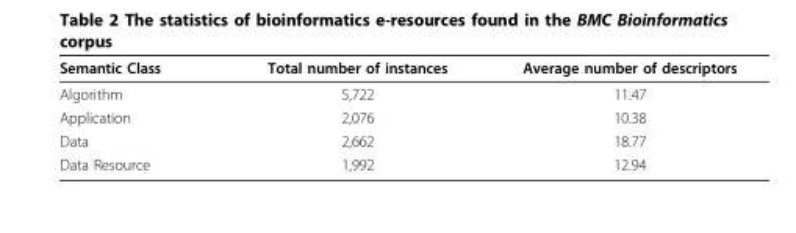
<table><thead><tr><td>Semantic Class</td><td>Total number of instances</td><td>Average number of descriptors</td></tr></thead><tbody><tr><td>Algorithm</td><td>5,722</td><td>11.47</td></tr><tr><td>Application</td><td>2,076</td><td>10.38</td></tr><tr><td>Data</td><td>2,662</td><td>18.77</td></tr><tr><td>Data Resource</td><td>1,992</td><td>12.94</td></tr></tbody></table>